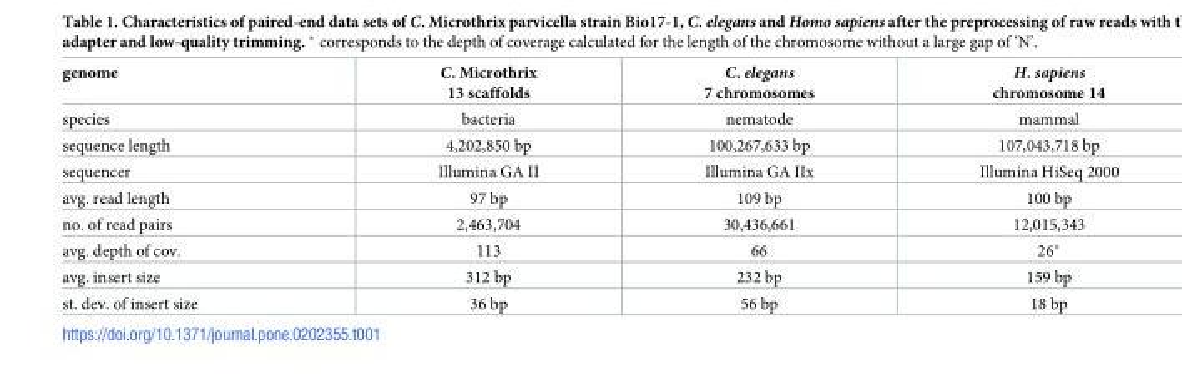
<table><thead><tr><td>genome</td><td>C. Microthrix 13 scaffolds</td><td>C. elegans 7 chromosomes</td><td>H. sapiens chromosome 14</td></tr></thead><tbody><tr><td>species</td><td>bacteria</td><td>nematode</td><td>mammal</td></tr><tr><td>sequence length</td><td>4,202,850 bp</td><td>100,267,633 bp</td><td>107,043,718 bp</td></tr><tr><td>sequencer</td><td>Illumina GA II</td><td>Illumina GA IIx</td><td>Illumina HiSeq 2000</td></tr><tr><td>avg. read length</td><td>97 bp</td><td>109 bp</td><td>100 bp</td></tr><tr><td>no. of read pairs</td><td>2,463,704</td><td>30,436,661</td><td>12,015,343</td></tr><tr><td>avg. depth of cov.</td><td>113</td><td>66</td><td>26*</td></tr><tr><td>avg. insert size</td><td>312 bp</td><td>232 bp</td><td>159 bp</td></tr><tr><td>st. dev. of insert size</td><td>36 bp</td><td>56 bp</td><td>18 bp</td></tr></tbody></table>